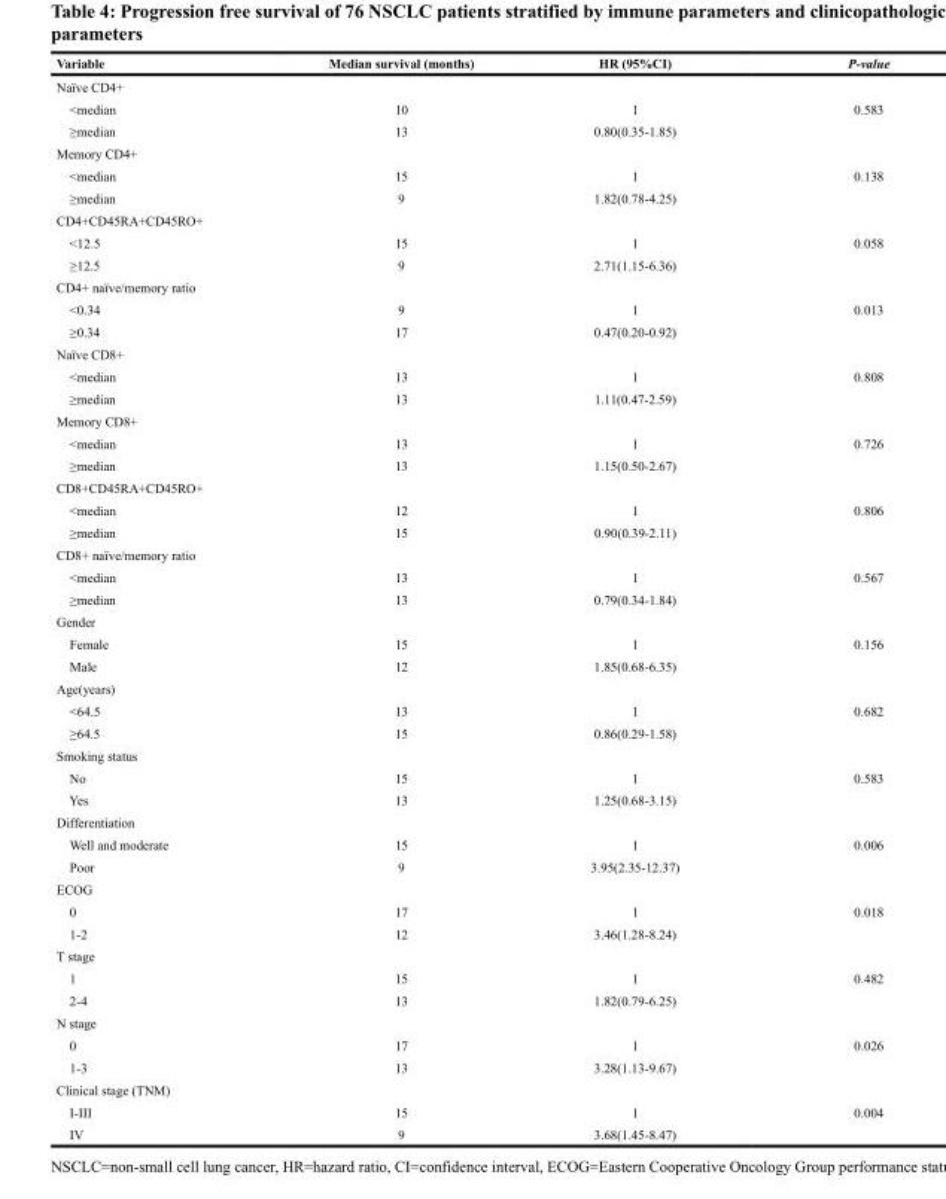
<table><thead><tr><td>Variable</td><td>Median survival (months)</td><td>HR (95%CI)</td><td>P-value</td></tr></thead><tbody><tr><td colspan="4">Naïve CD4+</td></tr><tr><td>&lt;median</td><td>10</td><td>1</td><td>0.583</td></tr><tr><td>≥median</td><td>13</td><td>0.80(0.35-1.85)</td><td></td></tr><tr><td colspan="4">Memory CD4+</td></tr><tr><td>&lt;median</td><td>15</td><td>1</td><td>0.138</td></tr><tr><td>≥median</td><td>9</td><td>1.82(0.78-4.25)</td><td></td></tr><tr><td colspan="4">CD4+CD45RA+CD45RO+</td></tr><tr><td>&lt;12.5</td><td>15</td><td>1</td><td>0.058</td></tr><tr><td>≥12.5</td><td>9</td><td>2.71(1.15-6.36)</td><td></td></tr><tr><td colspan="4">CD4+ naïve/memory ratio</td></tr><tr><td>&lt;0.34</td><td>9</td><td>1</td><td>0.013</td></tr><tr><td>≥0.34</td><td>17</td><td>0.47(0.20-0.92)</td><td></td></tr><tr><td colspan="4">Naïve CD8+</td></tr><tr><td>&lt;median</td><td>13</td><td>1</td><td>0.808</td></tr><tr><td>≥median</td><td>13</td><td>1.11(0.47-2.59)</td><td></td></tr><tr><td colspan="4">Memory CD8+</td></tr><tr><td>&lt;median</td><td>13</td><td>1</td><td>0.726</td></tr><tr><td>≥median</td><td>13</td><td>1.15(0.50-2.67)</td><td></td></tr><tr><td colspan="4">CD8+CD45RA+CD45RO+</td></tr><tr><td>&lt;median</td><td>12</td><td>1</td><td>0.806</td></tr><tr><td>≥median</td><td>15</td><td>0.90(0.39-2.11)</td><td></td></tr><tr><td colspan="4">CD8+ naïve/memory ratio</td></tr><tr><td>&lt;median</td><td>13</td><td>1</td><td>0.567</td></tr><tr><td>≥median</td><td>13</td><td>0.79(0.34-1.84)</td><td></td></tr><tr><td colspan="4">Gender</td></tr><tr><td>Female</td><td>15</td><td>1</td><td>0.156</td></tr><tr><td>Male</td><td>12</td><td>1.85(0.68-6.35)</td><td></td></tr><tr><td colspan="4">Age(years)</td></tr><tr><td>&lt;64.5</td><td>13</td><td>1</td><td>0.682</td></tr><tr><td>≥64.5</td><td>15</td><td>0.86(0.29-1.58)</td><td></td></tr><tr><td colspan="4">Smoking status</td></tr><tr><td>No</td><td>15</td><td>1</td><td>0.583</td></tr><tr><td>Yes</td><td>13</td><td>1.25(0.68-3.15)</td><td></td></tr><tr><td colspan="4">Differentiation</td></tr><tr><td>Well and moderate</td><td>15</td><td>1</td><td>0.006</td></tr><tr><td>Poor</td><td>9</td><td>3.95(2.35-12.37)</td><td></td></tr><tr><td colspan="4">ECOG</td></tr><tr><td>0</td><td>17</td><td>1</td><td>0.018</td></tr><tr><td>1-2</td><td>12</td><td>3.46(1.28-8.24)</td><td></td></tr><tr><td colspan="4">T stage</td></tr><tr><td>1</td><td>15</td><td>1</td><td>0.482</td></tr><tr><td>2-4</td><td>13</td><td>1.82(0.79-6.25)</td><td></td></tr><tr><td colspan="4">N stage</td></tr><tr><td>0</td><td>17</td><td>1</td><td>0.026</td></tr><tr><td>1-3</td><td>13</td><td>3.28(1.13-9.67)</td><td></td></tr><tr><td colspan="4">Clinical stage (TNM)</td></tr><tr><td>I-III</td><td>15</td><td>1</td><td>0.004</td></tr><tr><td>IV</td><td>9</td><td>3.68(1.45-8.47)</td><td></td></tr></tbody></table>